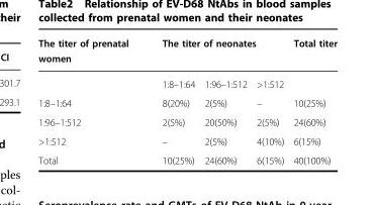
<table><thead><tr><td rowspan="2">The titer of prenatal women</td><td colspan="3">The titer of neonates</td><td rowspan="2">Total titer</td></tr><tr><td>1:8–1:64</td><td>1:96–1:512</td><td>&gt;1:512</td></tr></thead><tbody><tr><td>1:8–1:64</td><td>8(20%)</td><td>2(5%)</td><td>–</td><td>10(25%)</td></tr><tr><td>1:96–1:512</td><td>2(5%)</td><td>20(50%)</td><td>2(5%)</td><td>24(60%)</td></tr><tr><td>&gt;1:512</td><td>–</td><td>2(5%)</td><td>4(10%)</td><td>6(15%)</td></tr><tr><td>Total</td><td>10(25%)</td><td>24(60%)</td><td>6(15%)</td><td>40(100%)</td></tr></tbody></table>